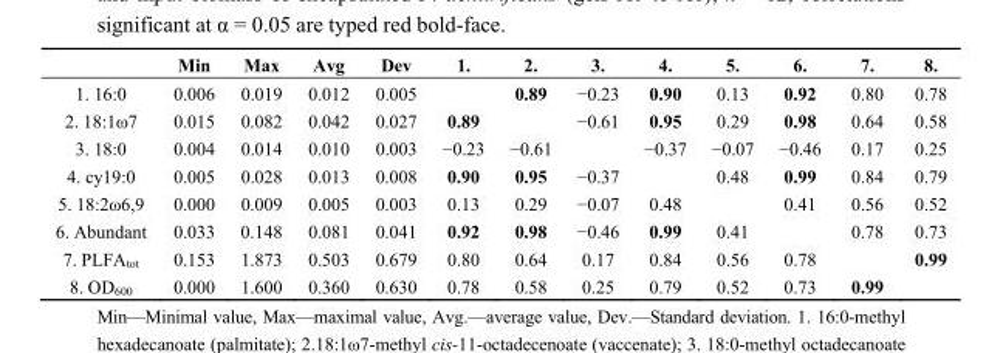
<table><thead><tr><td></td><td>Min</td><td>Max</td><td>Avg</td><td>Dev</td><td>1.</td><td>2.</td><td>3.</td><td>4.</td><td>5.</td><td>6.</td><td>7.</td><td>8.</td></tr></thead><tbody><tr><td>1. 16:0</td><td>0.006</td><td>0.019</td><td>0.012</td><td>0.005</td><td></td><td>0.89</td><td>−0.23</td><td>0.90</td><td>0.13</td><td>0.92</td><td>0.80</td><td>0.78</td></tr><tr><td>2. 18:1ω7</td><td>0.015</td><td>0.082</td><td>0.042</td><td>0.027</td><td>0.89</td><td></td><td>−0.61</td><td>0.95</td><td>0.29</td><td>0.98</td><td>0.64</td><td>0.58</td></tr><tr><td>3. 18:0</td><td>0.004</td><td>0.014</td><td>0.010</td><td>0.003</td><td>−0.23</td><td>−0.61</td><td></td><td>−0.37</td><td>−0.07</td><td>−0.46</td><td>0.17</td><td>0.25</td></tr><tr><td>4. cy19:0</td><td>0.005</td><td>0.028</td><td>0.013</td><td>0.008</td><td>0.90</td><td>0.95</td><td>−0.37</td><td></td><td>0.48</td><td>0.99</td><td>0.84</td><td>0.79</td></tr><tr><td>5. 18:2ω6,9</td><td>0.000</td><td>0.009</td><td>0.005</td><td>0.003</td><td>0.13</td><td>0.29</td><td>−0.07</td><td>0.48</td><td></td><td>0.41</td><td>0.56</td><td>0.52</td></tr><tr><td>6. Abundant</td><td>0.033</td><td>0.148</td><td>0.081</td><td>0.041</td><td>0.92</td><td>0.98</td><td>−0.46</td><td>0.99</td><td>0.41</td><td></td><td>0.78</td><td>0.73</td></tr><tr><td>7. PLFA<sub>tot</sub></td><td>0.153</td><td>1.873</td><td>0.503</td><td>0.679</td><td>0.80</td><td>0.64</td><td>0.17</td><td>0.84</td><td>0.56</td><td>0.78</td><td></td><td>0.99</td></tr><tr><td>8. OD<sub>600</sub></td><td>0.000</td><td>1.600</td><td>0.360</td><td>0.630</td><td>0.78</td><td>0.58</td><td>0.25</td><td>0.79</td><td>0.52</td><td>0.73</td><td>0.99</td><td></td></tr></tbody></table>